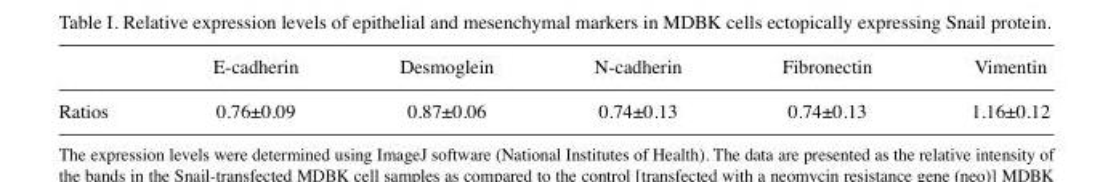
<table><thead><tr><td></td><td>E-cadherin</td><td>Desmoglein</td><td>N-cadherin</td><td>Fibronectin</td><td>Vimentin</td></tr></thead><tbody><tr><td>Ratios</td><td>0.76±0.09</td><td>0.87±0.06</td><td>0.74±0.13</td><td>0.74±0.13</td><td>1.16±0.12</td></tr></tbody></table>